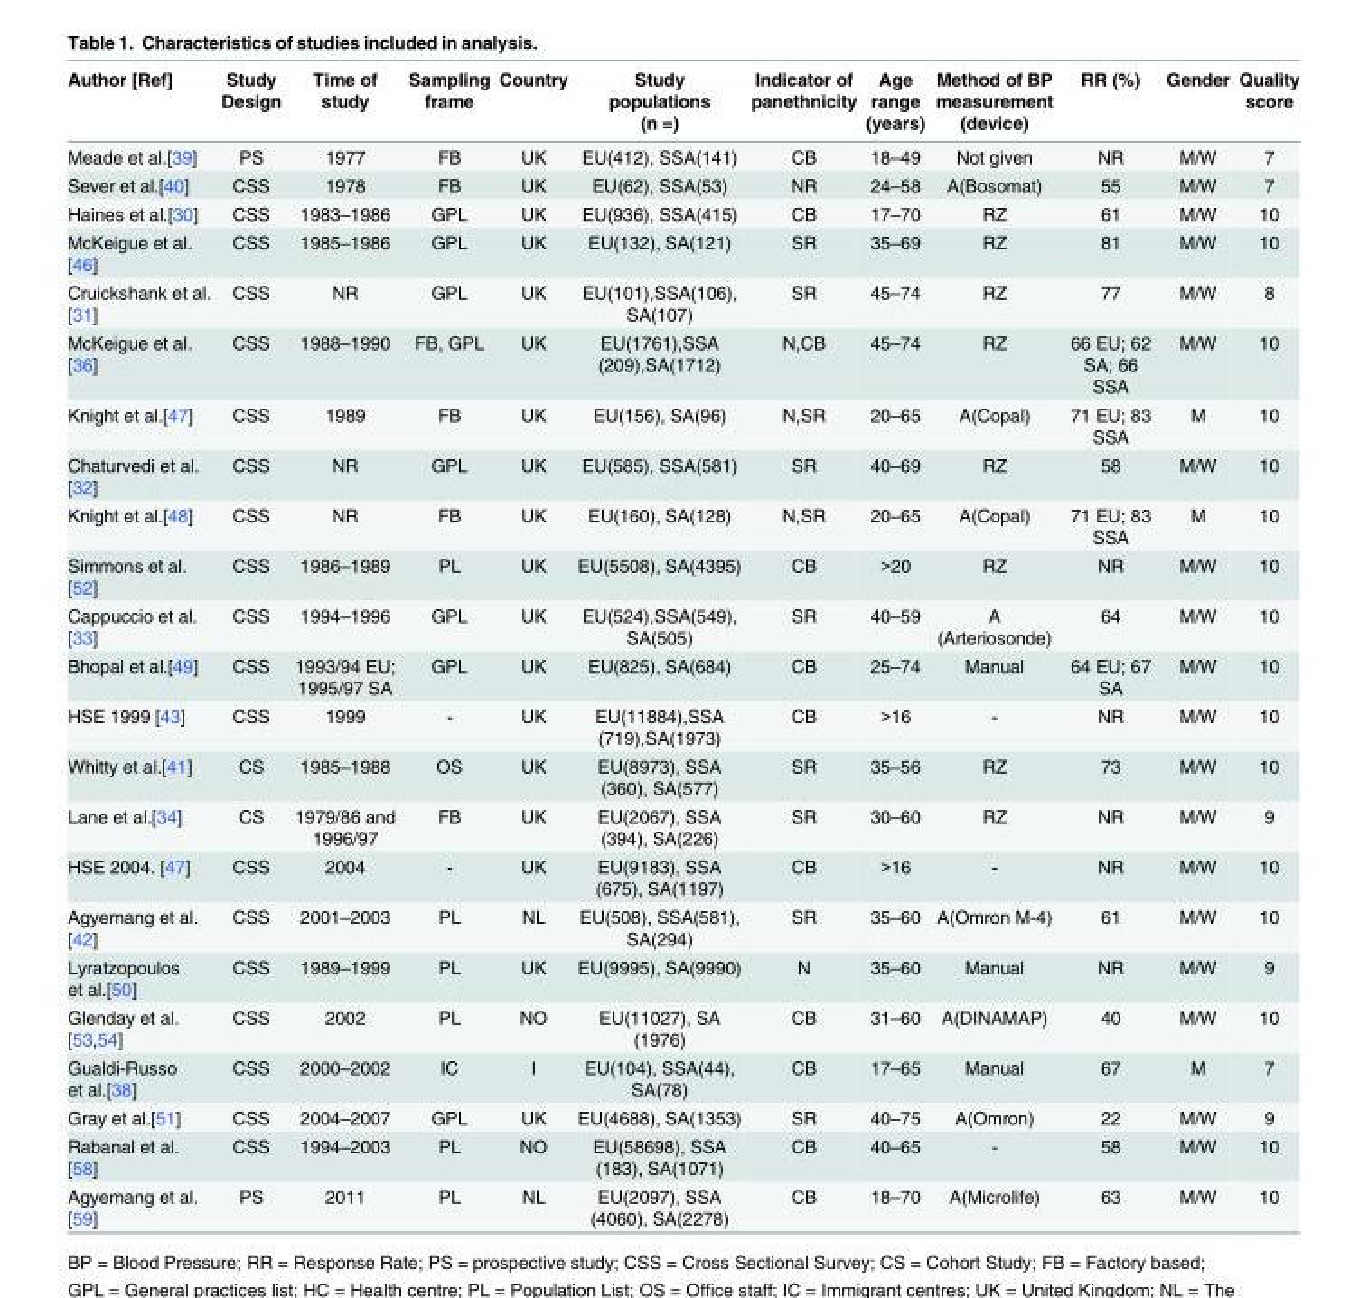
<table><thead><tr><td>Author [Ref]</td><td>Study Design</td><td>Time of study</td><td>Sampling frame</td><td>Country</td><td>Study populations (n =)</td><td>Indicator of panethnicity</td><td>Age range (years)</td><td>Method of BP measurement (device)</td><td>RR (%)</td><td>Gender</td><td>Quality score</td></tr></thead><tbody><tr><td>Meade et al.[39]</td><td>PS</td><td>1977</td><td>FB</td><td>UK</td><td>EU(412), SSA(141)</td><td>CB</td><td>18–49</td><td>Not given</td><td>NR</td><td>M/W</td><td>7</td></tr><tr><td>Sever et al.[40]</td><td>CSS</td><td>1978</td><td>FB</td><td>UK</td><td>EU(62), SSA(53)</td><td>NR</td><td>24–58</td><td>A(Bosomat)</td><td>55</td><td>M/W</td><td>7</td></tr><tr><td>Haines et al.[30]</td><td>CSS</td><td>1983–1986</td><td>GPL</td><td>UK</td><td>EU(936), SSA(415)</td><td>CB</td><td>17–70</td><td>RZ</td><td>61</td><td>M/W</td><td>10</td></tr><tr><td>McKeigue et al. [46]</td><td>CSS</td><td>1985–1986</td><td>GPL</td><td>UK</td><td>EU(132), SA(121)</td><td>SR</td><td>35–69</td><td>RZ</td><td>81</td><td>M/W</td><td>10</td></tr><tr><td>Cruickshank et al. [31]</td><td>CSS</td><td>NR</td><td>GPL</td><td>UK</td><td>EU(101),SSA(106), SA(107)</td><td>SR</td><td>45–74</td><td>RZ</td><td>77</td><td>M/W</td><td>8</td></tr><tr><td>McKeigue et al. [36]</td><td>CSS</td><td>1988–1990</td><td>FB, GPL</td><td>UK</td><td>EU(1761),SSA (209),SA(1712)</td><td>N,CB</td><td>45–74</td><td>RZ</td><td>66 EU; 62 SA; 66 SSA</td><td>M/W</td><td>10</td></tr><tr><td>Knight et al.[47]</td><td>CSS</td><td>1989</td><td>FB</td><td>UK</td><td>EU(156), SA(96)</td><td>N,SR</td><td>20–65</td><td>A(Copal)</td><td>71 EU; 83 SSA</td><td>M</td><td>10</td></tr><tr><td>Chaturvedi et al. [32]</td><td>CSS</td><td>NR</td><td>GPL</td><td>UK</td><td>EU(585), SSA(581)</td><td>SR</td><td>40–69</td><td>RZ</td><td>58</td><td>M/W</td><td>10</td></tr><tr><td>Knight et al.[48]</td><td>CSS</td><td>NR</td><td>FB</td><td>UK</td><td>EU(160), SA(128)</td><td>N,SR</td><td>20–65</td><td>A(Copal)</td><td>71 EU; 83 SSA</td><td>M</td><td>10</td></tr><tr><td>Simmons et al. [52]</td><td>CSS</td><td>1986–1989</td><td>PL</td><td>UK</td><td>EU(5508), SA(4395)</td><td>CB</td><td>&gt;20</td><td>RZ</td><td>NR</td><td>M/W</td><td>10</td></tr><tr><td>Cappuccio et al. [33]</td><td>CSS</td><td>1994–1996</td><td>GPL</td><td>UK</td><td>EU(524),SSA(549), SA(505)</td><td>SR</td><td>40–59</td><td>A (Arteriosonde)</td><td>64</td><td>M/W</td><td>10</td></tr><tr><td>Bhopal et al.[49]</td><td>CSS</td><td>1993/94 EU; 1995/97 SA</td><td>GPL</td><td>UK</td><td>EU(825), SA(684)</td><td>CB</td><td>25–74</td><td>Manual</td><td>64 EU; 67 SA</td><td>M/W</td><td>10</td></tr><tr><td>HSE 1999 [43]</td><td>CSS</td><td>1999</td><td>-</td><td>UK</td><td>EU(11884),SSA (719),SA(1973)</td><td>CB</td><td>&gt;16</td><td>-</td><td>NR</td><td>M/W</td><td>10</td></tr><tr><td>Whitty et al.[41]</td><td>CS</td><td>1985–1988</td><td>OS</td><td>UK</td><td>EU(8973), SSA (360), SA(577)</td><td>SR</td><td>35–56</td><td>RZ</td><td>73</td><td>M/W</td><td>10</td></tr><tr><td>Lane et al.[34]</td><td>CS</td><td>1979/86 and 1996/97</td><td>FB</td><td>UK</td><td>EU(2067), SSA (394), SA(226)</td><td>SR</td><td>30–60</td><td>RZ</td><td>NR</td><td>M/W</td><td>9</td></tr><tr><td>HSE 2004. [47]</td><td>CSS</td><td>2004</td><td>-</td><td>UK</td><td>EU(9183), SSA (675), SA(1197)</td><td>CB</td><td>&gt;16</td><td>-</td><td>NR</td><td>M/W</td><td>10</td></tr><tr><td>Agyemang et al. [42]</td><td>CSS</td><td>2001–2003</td><td>PL</td><td>NL</td><td>EU(508), SSA(581), SA(294)</td><td>SR</td><td>35–60</td><td>A(Omron M-4)</td><td>61</td><td>M/W</td><td>10</td></tr><tr><td>Lyratzopoulos et al.[50]</td><td>CSS</td><td>1989–1999</td><td>PL</td><td>UK</td><td>EU(9995), SA(9990)</td><td>N</td><td>35–60</td><td>Manual</td><td>NR</td><td>M/W</td><td>9</td></tr><tr><td>Glenday et al. [53,54]</td><td>CSS</td><td>2002</td><td>PL</td><td>NO</td><td>EU(11027), SA (1976)</td><td>CB</td><td>31–60</td><td>A(DINAMAP)</td><td>40</td><td>M/W</td><td>10</td></tr><tr><td>Gualdi-Russo et al.[38]</td><td>CSS</td><td>2000–2002</td><td>IC</td><td>I</td><td>EU(104), SSA(44), SA(78)</td><td>CB</td><td>17–65</td><td>Manual</td><td>67</td><td>M</td><td>7</td></tr><tr><td>Gray et al.[51]</td><td>CSS</td><td>2004–2007</td><td>GPL</td><td>UK</td><td>EU(4688), SA(1353)</td><td>SR</td><td>40–75</td><td>A(Omron)</td><td>22</td><td>M/W</td><td>9</td></tr><tr><td>Rabanal et al. [58]</td><td>CSS</td><td>1994–2003</td><td>PL</td><td>NO</td><td>EU(58698), SSA (183), SA(1071)</td><td>CB</td><td>40–65</td><td>-</td><td>58</td><td>M/W</td><td>10</td></tr><tr><td>Agyemang et al. [59]</td><td>PS</td><td>2011</td><td>PL</td><td>NL</td><td>EU(2097), SSA (4060), SA(2278)</td><td>CB</td><td>18–70</td><td>A(Microlife)</td><td>63</td><td>M/W</td><td>10</td></tr></tbody></table>